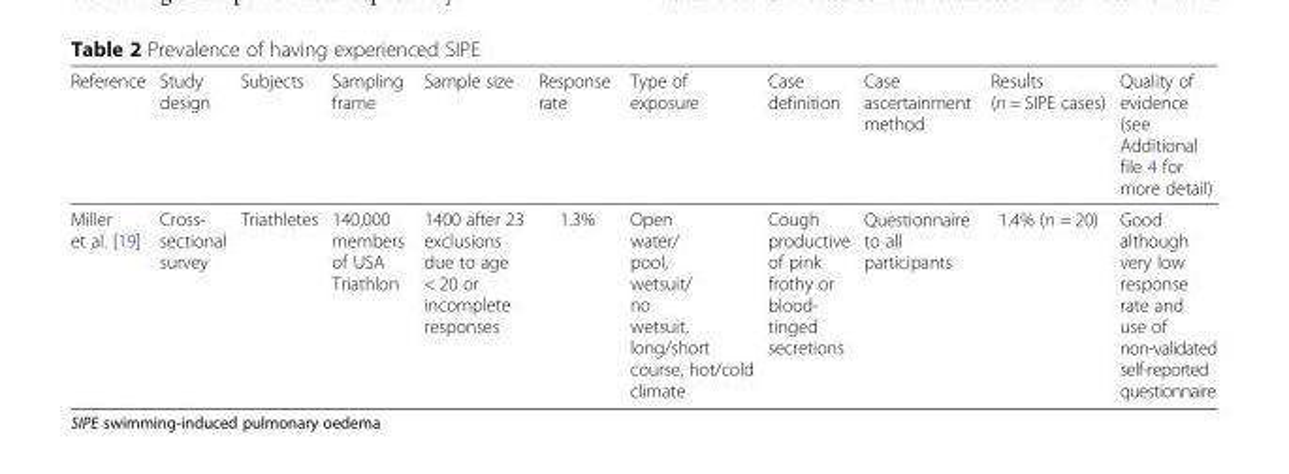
<table><thead><tr><td>Reference</td><td>Study design</td><td>Subjects</td><td>Sampling frame</td><td>Sample size</td><td>Response rate</td><td>Type of exposure</td><td>Case definition</td><td>Case ascertainment method</td><td>Results (n = SIPE cases)</td><td>Quality of evidence (see Additional file 4 for more detail)</td></tr></thead><tbody><tr><td>Miller et al. [19]</td><td>Cross- sectional survey</td><td>Triathletes</td><td>140,000 members of USA Triathlon</td><td>1400 after 23 exclusions due to age &lt; 20 or incomplete responses</td><td>1.3%</td><td>Open water/ pool, wetsuit/ no wetsuit, long/short course, hot/cold climate</td><td>Cough productive of pink frothy or blood- tinged secretions</td><td>Questionnaire to all participants</td><td>1.4% (n = 20)</td><td>Good although very low response rate and use of non-validated self-reported questionnaire</td></tr></tbody></table>